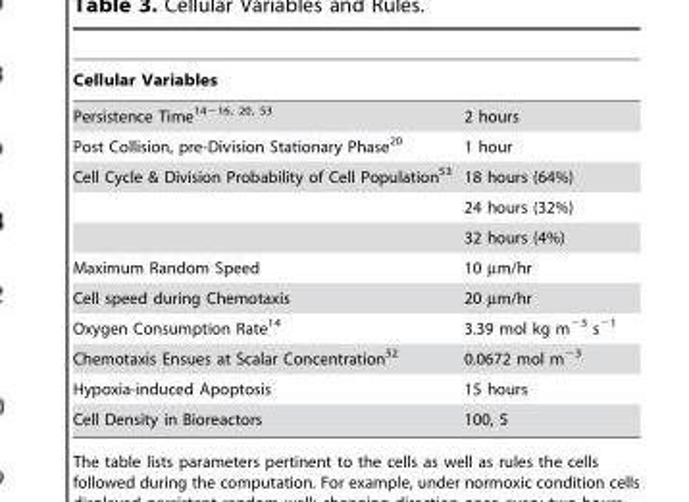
<table><thead><tr><td colspan="2">Cellular Variables</td></tr><tr><td>Persistence Time<sup>14−16, 20, 53</sup></td><td>2 hours</td></tr></thead><tbody><tr><td>Post Collision, pre-Division Stationary Phase<sup>20</sup></td><td>1 hour</td></tr><tr><td rowspan="3">Cell Cycle &amp; Division Probability of Cell Population<sup>53</sup></td><td>18 hours (64%)</td></tr><tr><td>24 hours (32%)</td></tr><tr><td>32 hours (4%)</td></tr><tr><td>Maximum Random Speed</td><td>10 µm/hr</td></tr><tr><td>Cell speed during Chemotaxis</td><td>20 µm/hr</td></tr><tr><td>Oxygen Consumption Rate<sup>14</sup></td><td>3.39 mol kg m<sup>−3</sup> s<sup>−1</sup></td></tr><tr><td>Chemotaxis Ensues at Scalar Concentration<sup>52</sup></td><td>0.0672 mol m<sup>−3</sup></td></tr><tr><td>Hypoxia-induced Apoptosis</td><td>15 hours</td></tr><tr><td>Cell Density in Bioreactors</td><td>100, 5</td></tr></tbody></table>